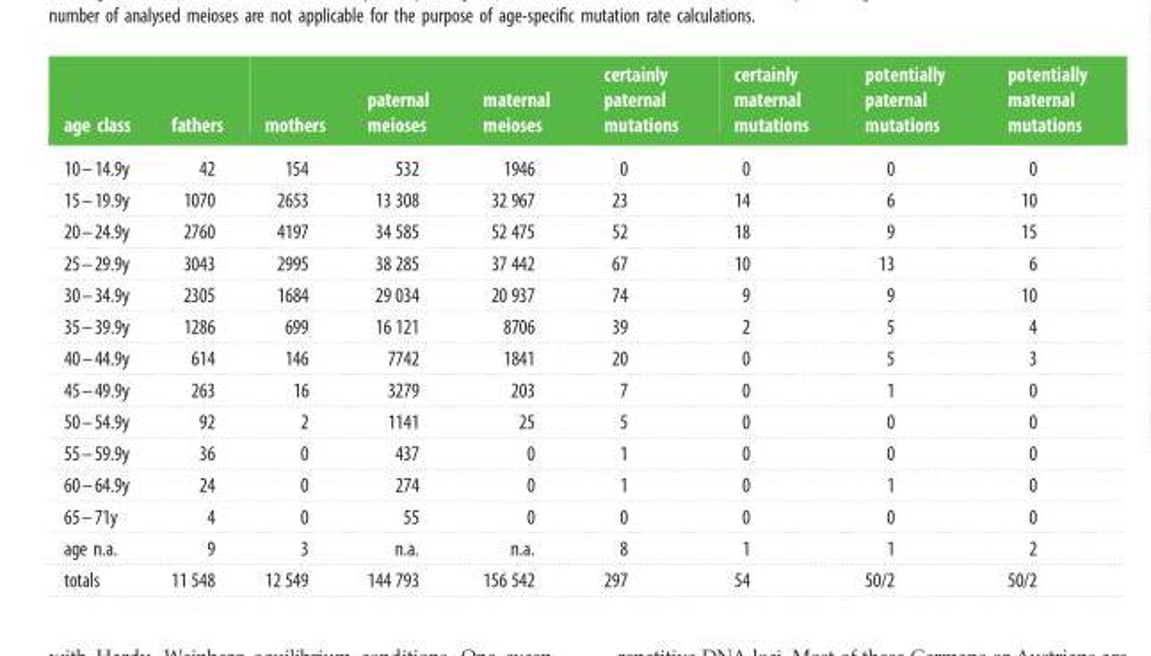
<table><thead><tr><td>age class</td><td>fathers</td><td>mothers</td><td>paternal meioses</td><td>maternal meioses</td><td>certainly paternal mutations</td><td>certainly maternal mutations</td><td>potentially paternal mutations</td><td>potentially maternal mutations</td></tr></thead><tbody><tr><td>10–14.9y</td><td>42</td><td>154</td><td>532</td><td>1946</td><td>0</td><td>0</td><td>0</td><td>0</td></tr><tr><td>15–19.9y</td><td>1070</td><td>2653</td><td>13 308</td><td>32 967</td><td>23</td><td>14</td><td>6</td><td>10</td></tr><tr><td>20–24.9y</td><td>2760</td><td>4197</td><td>34 585</td><td>52 475</td><td>52</td><td>18</td><td>9</td><td>15</td></tr><tr><td>25–29.9y</td><td>3043</td><td>2995</td><td>38 285</td><td>37 442</td><td>67</td><td>10</td><td>13</td><td>6</td></tr><tr><td>30–34.9y</td><td>2305</td><td>1684</td><td>29 034</td><td>20 937</td><td>74</td><td>9</td><td>9</td><td>10</td></tr><tr><td>35–39.9y</td><td>1286</td><td>699</td><td>16 121</td><td>8706</td><td>39</td><td>2</td><td>5</td><td>4</td></tr><tr><td>40–44.9y</td><td>614</td><td>146</td><td>7742</td><td>1841</td><td>20</td><td>0</td><td>5</td><td>3</td></tr><tr><td>45–49.9y</td><td>263</td><td>16</td><td>3279</td><td>203</td><td>7</td><td>0</td><td>1</td><td>0</td></tr><tr><td>50–54.9y</td><td>92</td><td>2</td><td>1141</td><td>25</td><td>5</td><td>0</td><td>0</td><td>0</td></tr><tr><td>55–59.9y</td><td>36</td><td>0</td><td>437</td><td>0</td><td>1</td><td>0</td><td>0</td><td>0</td></tr><tr><td>60–64.9y</td><td>24</td><td>0</td><td>274</td><td>0</td><td>1</td><td>0</td><td>1</td><td>0</td></tr><tr><td>65–71y</td><td>4</td><td>0</td><td>55</td><td>0</td><td>0</td><td>0</td><td>0</td><td>0</td></tr><tr><td>age n.a.</td><td>9</td><td>3</td><td>n.a.</td><td>n.a.</td><td>8</td><td>1</td><td>1</td><td>2</td></tr><tr><td>totals</td><td>11 548</td><td>12 549</td><td>144 793</td><td>156 542</td><td>297</td><td>54</td><td>50/2</td><td>50/2</td></tr></tbody></table>